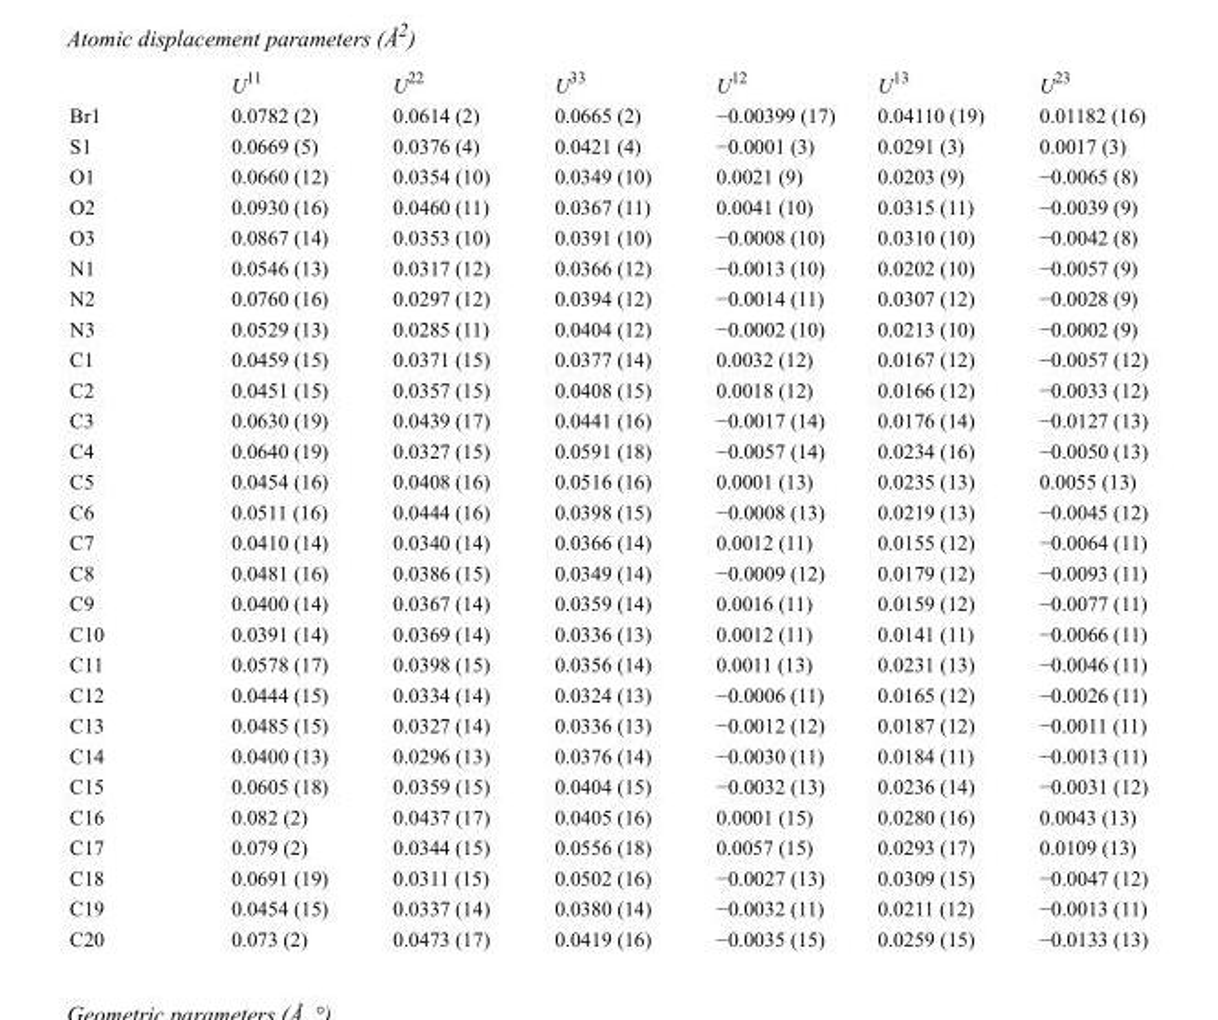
<table><thead><tr><td></td><td>U<sup>11</sup></td><td>U<sup>22</sup></td><td>U<sup>33</sup></td><td>U<sup>12</sup></td><td>U<sup>13</sup></td><td>U<sup>23</sup></td></tr></thead><tbody><tr><td>Br1</td><td>0.0782 (2)</td><td>0.0614 (2)</td><td>0.0665 (2)</td><td>−0.00399 (17)</td><td>0.04110 (19)</td><td>0.01182 (16)</td></tr><tr><td>S1</td><td>0.0669 (5)</td><td>0.0376 (4)</td><td>0.0421 (4)</td><td>−0.0001 (3)</td><td>0.0291 (3)</td><td>0.0017 (3)</td></tr><tr><td>O1</td><td>0.0660 (12)</td><td>0.0354 (10)</td><td>0.0349 (10)</td><td>0.0021 (9)</td><td>0.0203 (9)</td><td>−0.0065 (8)</td></tr><tr><td>O2</td><td>0.0930 (16)</td><td>0.0460 (11)</td><td>0.0367 (11)</td><td>0.0041 (10)</td><td>0.0315 (11)</td><td>−0.0039 (9)</td></tr><tr><td>O3</td><td>0.0867 (14)</td><td>0.0353 (10)</td><td>0.0391 (10)</td><td>−0.0008 (10)</td><td>0.0310 (10)</td><td>−0.0042 (8)</td></tr><tr><td>N1</td><td>0.0546 (13)</td><td>0.0317 (12)</td><td>0.0366 (12)</td><td>−0.0013 (10)</td><td>0.0202 (10)</td><td>−0.0057 (9)</td></tr><tr><td>N2</td><td>0.0760 (16)</td><td>0.0297 (12)</td><td>0.0394 (12)</td><td>−0.0014 (11)</td><td>0.0307 (12)</td><td>−0.0028 (9)</td></tr><tr><td>N3</td><td>0.0529 (13)</td><td>0.0285 (11)</td><td>0.0404 (12)</td><td>−0.0002 (10)</td><td>0.0213 (10)</td><td>−0.0002 (9)</td></tr><tr><td>C1</td><td>0.0459 (15)</td><td>0.0371 (15)</td><td>0.0377 (14)</td><td>0.0032 (12)</td><td>0.0167 (12)</td><td>−0.0057 (12)</td></tr><tr><td>C2</td><td>0.0451 (15)</td><td>0.0357 (15)</td><td>0.0408 (15)</td><td>0.0018 (12)</td><td>0.0166 (12)</td><td>−0.0033 (12)</td></tr><tr><td>C3</td><td>0.0630 (19)</td><td>0.0439 (17)</td><td>0.0441 (16)</td><td>−0.0017 (14)</td><td>0.0176 (14)</td><td>−0.0127 (13)</td></tr><tr><td>C4</td><td>0.0640 (19)</td><td>0.0327 (15)</td><td>0.0591 (18)</td><td>−0.0057 (14)</td><td>0.0234 (16)</td><td>−0.0050 (13)</td></tr><tr><td>C5</td><td>0.0454 (16)</td><td>0.0408 (16)</td><td>0.0516 (16)</td><td>0.0001 (13)</td><td>0.0235 (13)</td><td>0.0055 (13)</td></tr><tr><td>C6</td><td>0.0511 (16)</td><td>0.0444 (16)</td><td>0.0398 (15)</td><td>−0.0008 (13)</td><td>0.0219 (13)</td><td>−0.0045 (12)</td></tr><tr><td>C7</td><td>0.0410 (14)</td><td>0.0340 (14)</td><td>0.0366 (14)</td><td>0.0012 (11)</td><td>0.0155 (12)</td><td>−0.0064 (11)</td></tr><tr><td>C8</td><td>0.0481 (16)</td><td>0.0386 (15)</td><td>0.0349 (14)</td><td>−0.0009 (12)</td><td>0.0179 (12)</td><td>−0.0093 (11)</td></tr><tr><td>C9</td><td>0.0400 (14)</td><td>0.0367 (14)</td><td>0.0359 (14)</td><td>0.0016 (11)</td><td>0.0159 (12)</td><td>−0.0077 (11)</td></tr><tr><td>C10</td><td>0.0391 (14)</td><td>0.0369 (14)</td><td>0.0336 (13)</td><td>0.0012 (11)</td><td>0.0141 (11)</td><td>−0.0066 (11)</td></tr><tr><td>C11</td><td>0.0578 (17)</td><td>0.0398 (15)</td><td>0.0356 (14)</td><td>0.0011 (13)</td><td>0.0231 (13)</td><td>−0.0046 (11)</td></tr><tr><td>C12</td><td>0.0444 (15)</td><td>0.0334 (14)</td><td>0.0324 (13)</td><td>−0.0006 (11)</td><td>0.0165 (12)</td><td>−0.0026 (11)</td></tr><tr><td>C13</td><td>0.0485 (15)</td><td>0.0327 (14)</td><td>0.0336 (13)</td><td>−0.0012 (12)</td><td>0.0187 (12)</td><td>−0.0011 (11)</td></tr><tr><td>C14</td><td>0.0400 (13)</td><td>0.0296 (13)</td><td>0.0376 (14)</td><td>−0.0030 (11)</td><td>0.0184 (11)</td><td>−0.0013 (11)</td></tr><tr><td>C15</td><td>0.0605 (18)</td><td>0.0359 (15)</td><td>0.0404 (15)</td><td>−0.0032 (13)</td><td>0.0236 (14)</td><td>−0.0031 (12)</td></tr><tr><td>C16</td><td>0.082 (2)</td><td>0.0437 (17)</td><td>0.0405 (16)</td><td>0.0001 (15)</td><td>0.0280 (16)</td><td>0.0043 (13)</td></tr><tr><td>C17</td><td>0.079 (2)</td><td>0.0344 (15)</td><td>0.0556 (18)</td><td>0.0057 (15)</td><td>0.0293 (17)</td><td>0.0109 (13)</td></tr><tr><td>C18</td><td>0.0691 (19)</td><td>0.0311 (15)</td><td>0.0502 (16)</td><td>−0.0027 (13)</td><td>0.0309 (15)</td><td>−0.0047 (12)</td></tr><tr><td>C19</td><td>0.0454 (15)</td><td>0.0337 (14)</td><td>0.0380 (14)</td><td>−0.0032 (11)</td><td>0.0211 (12)</td><td>−0.0013 (11)</td></tr><tr><td>C20</td><td>0.073 (2)</td><td>0.0473 (17)</td><td>0.0419 (16)</td><td>−0.0035 (15)</td><td>0.0259 (15)</td><td>−0.0133 (13)</td></tr></tbody></table>